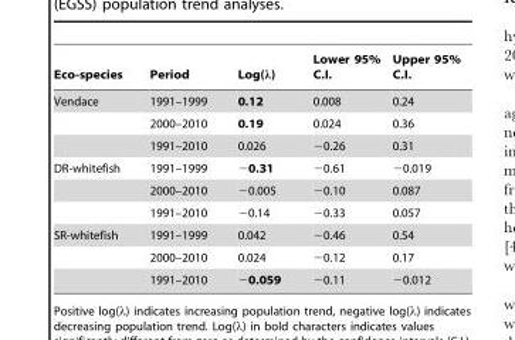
<table><thead><tr><td>Eco-species</td><td>Period</td><td>Log(λ)</td><td>Lower 95% C.I.</td><td>Upper 95% C.I.</td></tr></thead><tbody><tr><td rowspan="3">Vendace</td><td>1991–1999</td><td>0.12</td><td>0.008</td><td>0.24</td></tr><tr><td>2000–2010</td><td>0.19</td><td>0.024</td><td>0.36</td></tr><tr><td>1991–2010</td><td>0.026</td><td>−0.26</td><td>0.31</td></tr><tr><td rowspan="3">DR-whitefish</td><td>1991–1999</td><td>−0.31</td><td>−0.61</td><td>−0.019</td></tr><tr><td>2000–2010</td><td>−0.005</td><td>−0.10</td><td>0.087</td></tr><tr><td>1991–2010</td><td>−0.14</td><td>−0.33</td><td>0.057</td></tr><tr><td rowspan="3">SR-whitefish</td><td>1991–1999</td><td>0.042</td><td>−0.46</td><td>0.54</td></tr><tr><td>2000–2010</td><td>0.024</td><td>−0.12</td><td>0.17</td></tr><tr><td>1991–2010</td><td>−0.059</td><td>−0.11</td><td>−0.012</td></tr></tbody></table>